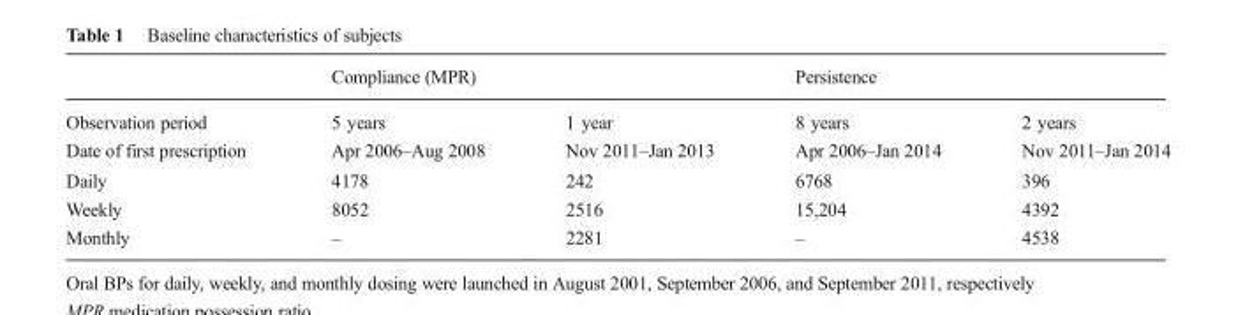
<table><thead><tr><td rowspan="2">Observation period</td><td colspan="2">Compliance (MPR)</td><td colspan="2">Persistence</td></tr><tr><td>5 years</td><td>1 year</td><td>8 years</td><td>2 years</td></tr></thead><tbody><tr><td>Date of first prescription</td><td>Apr 2006–Aug 2008</td><td>Nov 2011–Jan 2013</td><td>Apr 2006–Jan 2014</td><td>Nov 2011–Jan 2014</td></tr><tr><td>Daily</td><td>4178</td><td>242</td><td>6768</td><td>396</td></tr><tr><td>Weekly</td><td>8052</td><td>2516</td><td>15,204</td><td>4392</td></tr><tr><td>Monthly</td><td>–</td><td>2281</td><td>–</td><td>4538</td></tr></tbody></table>